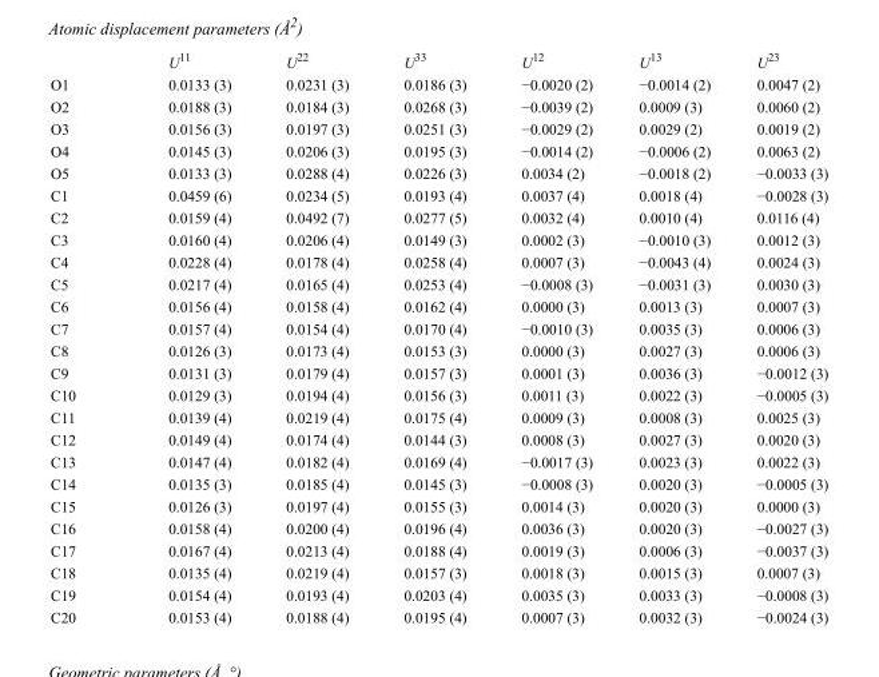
<table><thead><tr><td></td><td>U<sup>11</sup></td><td>U<sup>22</sup></td><td>U<sup>33</sup></td><td>U<sup>12</sup></td><td>U<sup>13</sup></td><td>U<sup>23</sup></td></tr></thead><tbody><tr><td>O1</td><td>0.0133 (3)</td><td>0.0231 (3)</td><td>0.0186 (3)</td><td>−0.0020 (2)</td><td>−0.0014 (2)</td><td>0.0047 (2)</td></tr><tr><td>O2</td><td>0.0188 (3)</td><td>0.0184 (3)</td><td>0.0268 (3)</td><td>−0.0039 (2)</td><td>0.0009 (3)</td><td>0.0060 (2)</td></tr><tr><td>O3</td><td>0.0156 (3)</td><td>0.0197 (3)</td><td>0.0251 (3)</td><td>−0.0029 (2)</td><td>0.0029 (2)</td><td>0.0019 (2)</td></tr><tr><td>O4</td><td>0.0145 (3)</td><td>0.0206 (3)</td><td>0.0195 (3)</td><td>−0.0014 (2)</td><td>−0.0006 (2)</td><td>0.0063 (2)</td></tr><tr><td>O5</td><td>0.0133 (3)</td><td>0.0288 (4)</td><td>0.0226 (3)</td><td>0.0034 (2)</td><td>−0.0018 (2)</td><td>−0.0033 (3)</td></tr><tr><td>C1</td><td>0.0459 (6)</td><td>0.0234 (5)</td><td>0.0193 (4)</td><td>0.0037 (4)</td><td>0.0018 (4)</td><td>−0.0028 (3)</td></tr><tr><td>C2</td><td>0.0159 (4)</td><td>0.0492 (7)</td><td>0.0277 (5)</td><td>0.0032 (4)</td><td>0.0010 (4)</td><td>0.0116 (4)</td></tr><tr><td>C3</td><td>0.0160 (4)</td><td>0.0206 (4)</td><td>0.0149 (3)</td><td>0.0002 (3)</td><td>−0.0010 (3)</td><td>0.0012 (3)</td></tr><tr><td>C4</td><td>0.0228 (4)</td><td>0.0178 (4)</td><td>0.0258 (4)</td><td>0.0007 (3)</td><td>−0.0043 (4)</td><td>0.0024 (3)</td></tr><tr><td>C5</td><td>0.0217 (4)</td><td>0.0165 (4)</td><td>0.0253 (4)</td><td>−0.0008 (3)</td><td>−0.0031 (3)</td><td>0.0030 (3)</td></tr><tr><td>C6</td><td>0.0156 (4)</td><td>0.0158 (4)</td><td>0.0162 (4)</td><td>0.0000 (3)</td><td>0.0013 (3)</td><td>0.0007 (3)</td></tr><tr><td>C7</td><td>0.0157 (4)</td><td>0.0154 (4)</td><td>0.0170 (4)</td><td>−0.0010 (3)</td><td>0.0035 (3)</td><td>0.0006 (3)</td></tr><tr><td>C8</td><td>0.0126 (3)</td><td>0.0173 (4)</td><td>0.0153 (3)</td><td>0.0000 (3)</td><td>0.0027 (3)</td><td>0.0006 (3)</td></tr><tr><td>C9</td><td>0.0131 (3)</td><td>0.0179 (4)</td><td>0.0157 (3)</td><td>0.0001 (3)</td><td>0.0036 (3)</td><td>−0.0012 (3)</td></tr><tr><td>C10</td><td>0.0129 (3)</td><td>0.0194 (4)</td><td>0.0156 (3)</td><td>0.0011 (3)</td><td>0.0022 (3)</td><td>−0.0005 (3)</td></tr><tr><td>C11</td><td>0.0139 (4)</td><td>0.0219 (4)</td><td>0.0175 (4)</td><td>0.0009 (3)</td><td>0.0008 (3)</td><td>0.0025 (3)</td></tr><tr><td>C12</td><td>0.0149 (4)</td><td>0.0174 (4)</td><td>0.0144 (3)</td><td>0.0008 (3)</td><td>0.0027 (3)</td><td>0.0020 (3)</td></tr><tr><td>C13</td><td>0.0147 (4)</td><td>0.0182 (4)</td><td>0.0169 (4)</td><td>−0.0017 (3)</td><td>0.0023 (3)</td><td>0.0022 (3)</td></tr><tr><td>C14</td><td>0.0135 (3)</td><td>0.0185 (4)</td><td>0.0145 (3)</td><td>−0.0008 (3)</td><td>0.0020 (3)</td><td>−0.0005 (3)</td></tr><tr><td>C15</td><td>0.0126 (3)</td><td>0.0197 (4)</td><td>0.0155 (3)</td><td>0.0014 (3)</td><td>0.0020 (3)</td><td>0.0000 (3)</td></tr><tr><td>C16</td><td>0.0158 (4)</td><td>0.0200 (4)</td><td>0.0196 (4)</td><td>0.0036 (3)</td><td>0.0020 (3)</td><td>−0.0027 (3)</td></tr><tr><td>C17</td><td>0.0167 (4)</td><td>0.0213 (4)</td><td>0.0188 (4)</td><td>0.0019 (3)</td><td>0.0006 (3)</td><td>−0.0037 (3)</td></tr><tr><td>C18</td><td>0.0135 (4)</td><td>0.0219 (4)</td><td>0.0157 (3)</td><td>0.0018 (3)</td><td>0.0015 (3)</td><td>0.0007 (3)</td></tr><tr><td>C19</td><td>0.0154 (4)</td><td>0.0193 (4)</td><td>0.0203 (4)</td><td>0.0035 (3)</td><td>0.0033 (3)</td><td>−0.0008 (3)</td></tr><tr><td>C20</td><td>0.0153 (4)</td><td>0.0188 (4)</td><td>0.0195 (4)</td><td>0.0007 (3)</td><td>0.0032 (3)</td><td>−0.0024 (3)</td></tr></tbody></table>